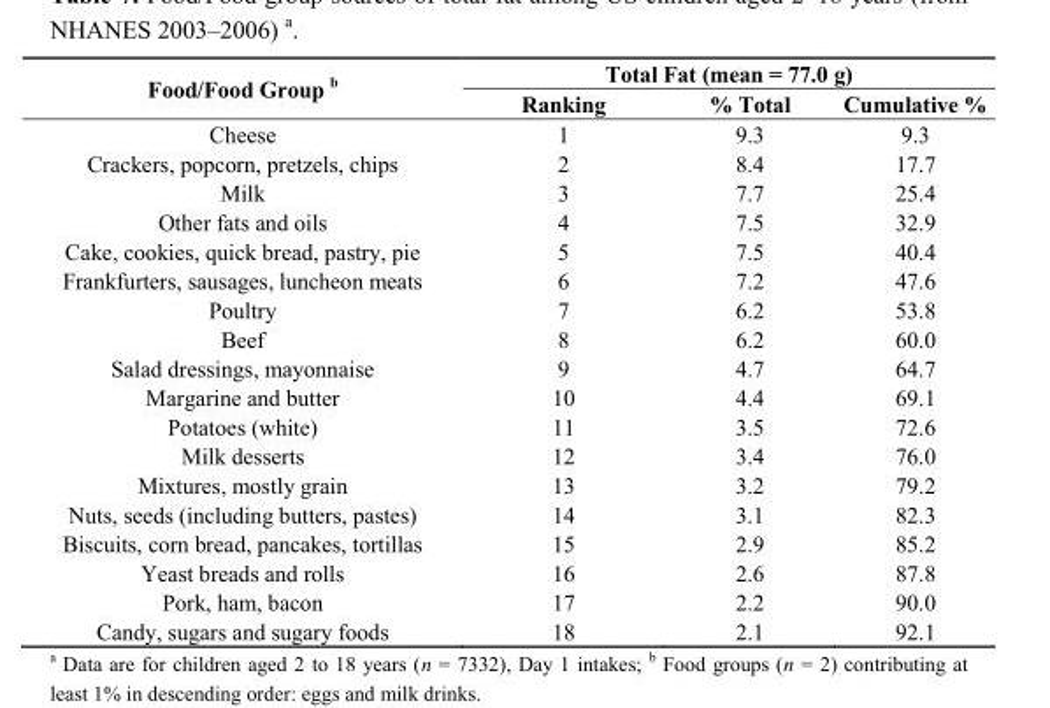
<table><thead><tr><td rowspan="2">Food/Food Group <sup>b</sup></td><td colspan="3">Total Fat (mean = 77.0 g)</td></tr><tr><td>Ranking</td><td>% Total</td><td>Cumulative %</td></tr></thead><tbody><tr><td>Cheese</td><td>1</td><td>9.3</td><td>9.3</td></tr><tr><td>Crackers, popcorn, pretzels, chips</td><td>2</td><td>8.4</td><td>17.7</td></tr><tr><td>Milk</td><td>3</td><td>7.7</td><td>25.4</td></tr><tr><td>Other fats and oils</td><td>4</td><td>7.5</td><td>32.9</td></tr><tr><td>Cake, cookies, quick bread, pastry, pie</td><td>5</td><td>7.5</td><td>40.4</td></tr><tr><td>Frankfurters, sausages, luncheon meats</td><td>6</td><td>7.2</td><td>47.6</td></tr><tr><td>Poultry</td><td>7</td><td>6.2</td><td>53.8</td></tr><tr><td>Beef</td><td>8</td><td>6.2</td><td>60.0</td></tr><tr><td>Salad dressings, mayonnaise</td><td>9</td><td>4.7</td><td>64.7</td></tr><tr><td>Margarine and butter</td><td>10</td><td>4.4</td><td>69.1</td></tr><tr><td>Potatoes (white)</td><td>11</td><td>3.5</td><td>72.6</td></tr><tr><td>Milk desserts</td><td>12</td><td>3.4</td><td>76.0</td></tr><tr><td>Mixtures, mostly grain</td><td>13</td><td>3.2</td><td>79.2</td></tr><tr><td>Nuts, seeds (including butters, pastes)</td><td>14</td><td>3.1</td><td>82.3</td></tr><tr><td>Biscuits, corn bread, pancakes, tortillas</td><td>15</td><td>2.9</td><td>85.2</td></tr><tr><td>Yeast breads and rolls</td><td>16</td><td>2.6</td><td>87.8</td></tr><tr><td>Pork, ham, bacon</td><td>17</td><td>2.2</td><td>90.0</td></tr><tr><td>Candy, sugars and sugary foods</td><td>18</td><td>2.1</td><td>92.1</td></tr></tbody></table>